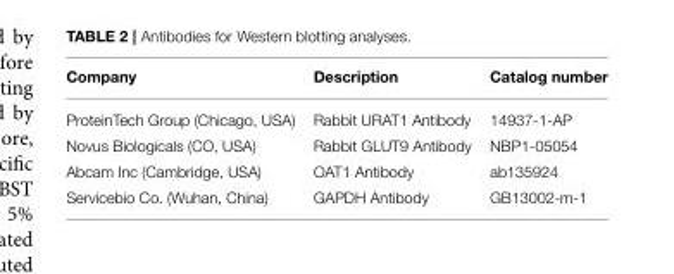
<table><thead><tr><td>Company</td><td>Description</td><td>Catalog number</td></tr></thead><tbody><tr><td>ProteinTech Group (Chicago, USA)</td><td>Rabbit URAT1 Antibody</td><td>14937-1-AP</td></tr><tr><td>Novus Biologicals (CO, USA)</td><td>Rabbit GLUT9 Antibody</td><td>NBP1-05054</td></tr><tr><td>Abcam Inc (Cambridge, USA)</td><td>OAT1 Antibody</td><td>ab135924</td></tr><tr><td>Servicebio Co. (Wuhan, China)</td><td>GAPDH Antibody</td><td>GB13002-m-1</td></tr></tbody></table>